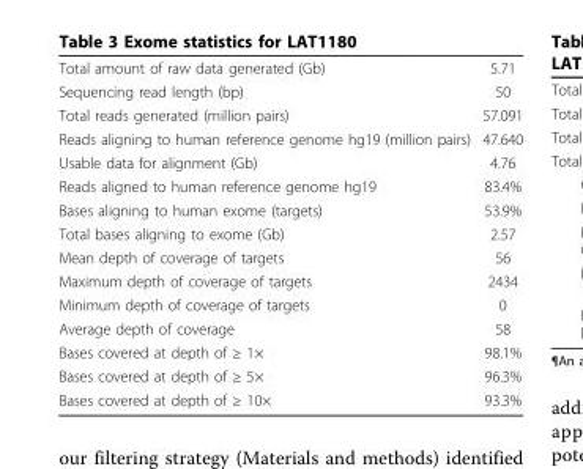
<table><tbody><tr><td>Total amount of raw data generated (Gb)</td><td>5.71</td></tr><tr><td>Sequencing read length (bp)</td><td>50</td></tr><tr><td>Total reads generated (million pairs)</td><td>57.091</td></tr><tr><td>Reads aligning to human reference genome hg19 (million pairs)</td><td>47.640</td></tr><tr><td>Usable data for alignment (Gb)</td><td>4.76</td></tr><tr><td>Reads aligned to human reference genome hg19</td><td>83.4%</td></tr><tr><td>Bases aligning to human exome (targets)</td><td>53.9%</td></tr><tr><td>Total bases aligning to exome (Gb)</td><td>2.57</td></tr><tr><td>Mean depth of coverage of targets</td><td>56</td></tr><tr><td>Maximum depth of coverage of targets</td><td>2434</td></tr><tr><td>Minimum depth of coverage of targets</td><td>0</td></tr><tr><td>Average depth of coverage</td><td>58</td></tr><tr><td>Bases covered at depth of ≥ 1×</td><td>98.1%</td></tr><tr><td>Bases covered at depth of ≥ 5×</td><td>96.3%</td></tr><tr><td>Bases covered at depth of ≥ 10×</td><td>93.3%</td></tr></tbody></table>